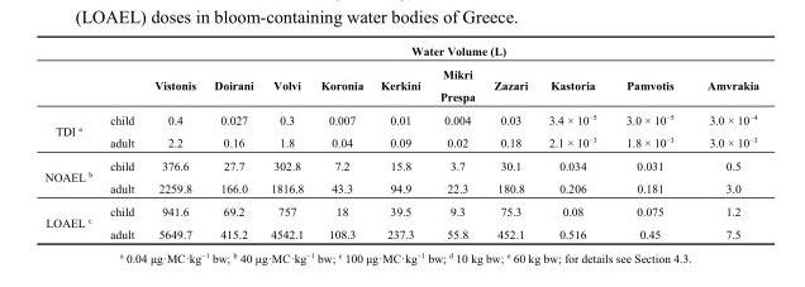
<table><thead><tr><td rowspan="2"></td><td rowspan="2"></td><td colspan="10">Water Volume (L)</td></tr><tr><td>Vistonis</td><td>Doirani</td><td>Volvi</td><td>Koronia</td><td>Kerkini</td><td>Mikri Prespa</td><td>Zazari</td><td>Kastoria</td><td>Pamvotis</td><td>Amvrakia</td></tr></thead><tbody><tr><td rowspan="2">TDI <sup>a</sup></td><td>child</td><td>0.4</td><td>0.027</td><td>0.3</td><td>0.007</td><td>0.01</td><td>0.004</td><td>0.03</td><td>3.4 × 10<sup>−5</sup></td><td>3.0 × 10<sup>−5</sup></td><td>3.0 × 10<sup>−4</sup></td></tr><tr><td>adult</td><td>2.2</td><td>0.16</td><td>1.8</td><td>0.04</td><td>0.09</td><td>0.02</td><td>0.18</td><td>2.1 × 10<sup>−3</sup></td><td>1.8 × 10<sup>−3</sup></td><td>3.0 × 10<sup>−3</sup></td></tr><tr><td rowspan="2">NOAEL <sup>b</sup></td><td>child</td><td>376.6</td><td>27.7</td><td>302.8</td><td>7.2</td><td>15.8</td><td>3.7</td><td>30.1</td><td>0.034</td><td>0.031</td><td>0.5</td></tr><tr><td>adult</td><td>2259.8</td><td>166.0</td><td>1816.8</td><td>43.3</td><td>94.9</td><td>22.3</td><td>180.8</td><td>0.206</td><td>0.181</td><td>3.0</td></tr><tr><td rowspan="2">LOAEL <sup>c</sup></td><td>child</td><td>941.6</td><td>69.2</td><td>757</td><td>18</td><td>39.5</td><td>9.3</td><td>75.3</td><td>0.08</td><td>0.075</td><td>1.2</td></tr><tr><td>adult</td><td>5649.7</td><td>415.2</td><td>4542.1</td><td>108.3</td><td>237.3</td><td>55.8</td><td>452.1</td><td>0.516</td><td>0.45</td><td>7.5</td></tr></tbody></table>